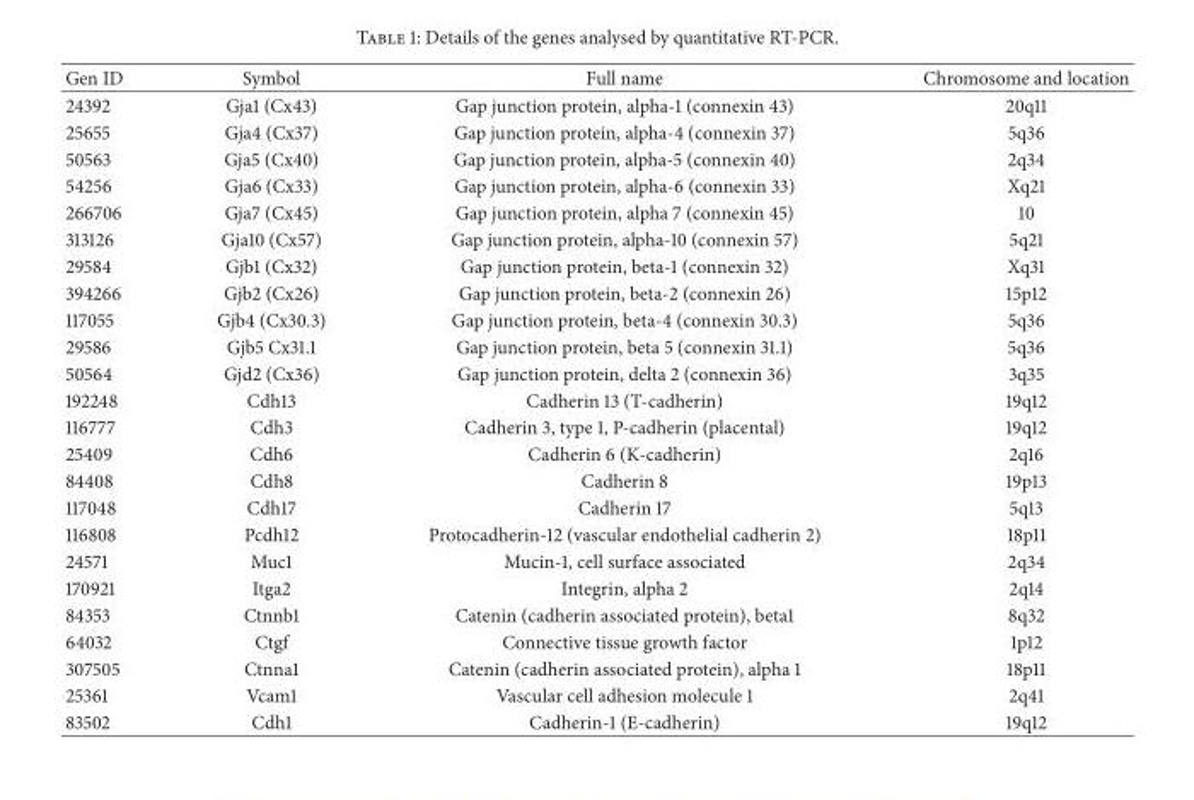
<table><thead><tr><td>Gen ID</td><td>Symbol</td><td>Full name</td><td>Chromosome and location</td></tr></thead><tbody><tr><td>24392</td><td>Gja1 (Cx43)</td><td>Gap junction protein, alpha-1 (connexin 43)</td><td>20q11</td></tr><tr><td>25655</td><td>Gja4 (Cx37)</td><td>Gap junction protein, alpha-4 (connexin 37)</td><td>5q36</td></tr><tr><td>50563</td><td>Gja5 (Cx40)</td><td>Gap junction protein, alpha-5 (connexin 40)</td><td>2q34</td></tr><tr><td>54256</td><td>Gja6 (Cx33)</td><td>Gap junction protein, alpha-6 (connexin 33)</td><td>Xq21</td></tr><tr><td>266706</td><td>Gja7 (Cx45)</td><td>Gap junction protein, alpha 7 (connexin 45)</td><td>10</td></tr><tr><td>313126</td><td>Gja10 (Cx57)</td><td>Gap junction protein, alpha-10 (connexin 57)</td><td>5q21</td></tr><tr><td>29584</td><td>Gjb1 (Cx32)</td><td>Gap junction protein, beta-1 (connexin 32)</td><td>Xq31</td></tr><tr><td>394266</td><td>Gjb2 (Cx26)</td><td>Gap junction protein, beta-2 (connexin 26)</td><td>15p12</td></tr><tr><td>117055</td><td>Gjb4 (Cx30.3)</td><td>Gap junction protein, beta-4 (connexin 30.3)</td><td>5q36</td></tr><tr><td>29586</td><td>Gjb5 Cx31.1</td><td>Gap junction protein, beta 5 (connexin 31.1)</td><td>5q36</td></tr><tr><td>50564</td><td>Gjd2 (Cx36)</td><td>Gap junction protein, delta 2 (connexin 36)</td><td>3q35</td></tr><tr><td>192248</td><td>Cdh13</td><td>Cadherin 13 (T-cadherin)</td><td>19q12</td></tr><tr><td>116777</td><td>Cdh3</td><td>Cadherin 3, type 1, P-cadherin (placental)</td><td>19q12</td></tr><tr><td>25409</td><td>Cdh6</td><td>Cadherin 6 (K-cadherin)</td><td>2q16</td></tr><tr><td>84408</td><td>Cdh8</td><td>Cadherin 8</td><td>19p13</td></tr><tr><td>117048</td><td>Cdh17</td><td>Cadherin 17</td><td>5q13</td></tr><tr><td>116808</td><td>Pcdh12</td><td>Protocadherin-12 (vascular endothelial cadherin 2)</td><td>18p11</td></tr><tr><td>24571</td><td>Muc1</td><td>Mucin-1, cell surface associated</td><td>2q34</td></tr><tr><td>170921</td><td>Itga2</td><td>Integrin, alpha 2</td><td>2q14</td></tr><tr><td>84353</td><td>Ctnnb1</td><td>Catenin (cadherin associated protein), beta1</td><td>8q32</td></tr><tr><td>64032</td><td>Ctgf</td><td>Connective tissue growth factor</td><td>1p12</td></tr><tr><td>307505</td><td>Ctnna1</td><td>Catenin (cadherin associated protein), alpha 1</td><td>18p11</td></tr><tr><td>25361</td><td>Vcam1</td><td>Vascular cell adhesion molecule 1</td><td>2q41</td></tr><tr><td>83502</td><td>Cdh1</td><td>Cadherin-1 (E-cadherin)</td><td>19q12</td></tr></tbody></table>